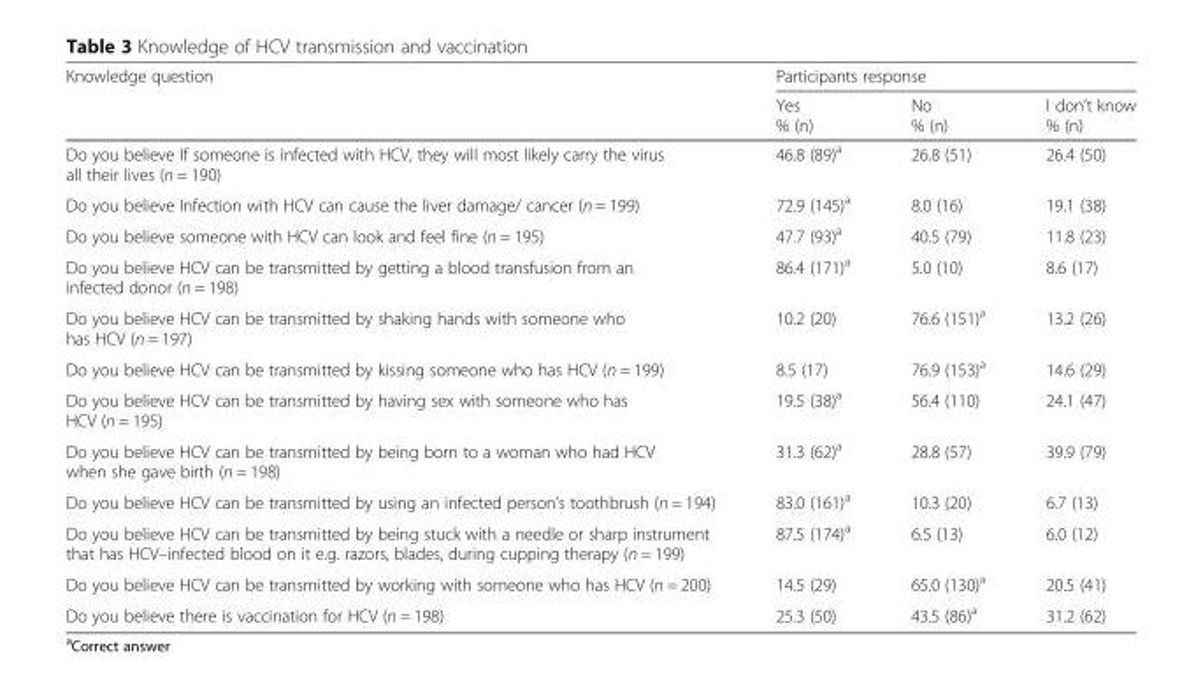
<table><thead><tr><td rowspan="2">Knowledge question</td><td colspan="3">Participants response</td></tr><tr><td>Yes % (n)</td><td>No % (n)</td><td>I don’t know % (n)</td></tr></thead><tbody><tr><td>Do you believe If someone is infected with HCV, they will most likely carry the virus all their lives (n = 190)</td><td>46.8 (89)<sup>a</sup></td><td>26.8 (51)</td><td>26.4 (50)</td></tr><tr><td>Do you believe Infection with HCV can cause the liver damage/ cancer (n = 199)</td><td>72.9 (145)<sup>a</sup></td><td>8.0 (16)</td><td>19.1 (38)</td></tr><tr><td>Do you believe someone with HCV can look and feel fine (n = 195)</td><td>47.7 (93)<sup>a</sup></td><td>40.5 (79)</td><td>11.8 (23)</td></tr><tr><td>Do you believe HCV can be transmitted by getting a blood transfusion from an infected donor (n = 198)</td><td>86.4 (171)<sup>a</sup></td><td>5.0 (10)</td><td>8.6 (17)</td></tr><tr><td>Do you believe HCV can be transmitted by shaking hands with someone who has HCV (n = 197)</td><td>10.2 (20)</td><td>76.6 (151)<sup>a</sup></td><td>13.2 (26)</td></tr><tr><td>Do you believe HCV can be transmitted by kissing someone who has HCV (n = 199)</td><td>8.5 (17)</td><td>76.9 (153)<sup>a</sup></td><td>14.6 (29)</td></tr><tr><td>Do you believe HCV can be transmitted by having sex with someone who has HCV (n = 195)</td><td>19.5 (38)<sup>a</sup></td><td>56.4 (110)</td><td>24.1 (47)</td></tr><tr><td>Do you believe HCV can be transmitted by being born to a woman who had HCV when she gave birth (n = 198)</td><td>31.3 (62)<sup>a</sup></td><td>28.8 (57)</td><td>39.9 (79)</td></tr><tr><td>Do you believe HCV can be transmitted by using an infected person’s toothbrush (n = 194)</td><td>83.0 (161)<sup>a</sup></td><td>10.3 (20)</td><td>6.7 (13)</td></tr><tr><td>Do you believe HCV can be transmitted by being stuck with a needle or sharp instrument that has HCV–infected blood on it e.g. razors, blades, during cupping therapy (n = 199)</td><td>87.5 (174)<sup>a</sup></td><td>6.5 (13)</td><td>6.0 (12)</td></tr><tr><td>Do you believe HCV can be transmitted by working with someone who has HCV (n = 200)</td><td>14.5 (29)</td><td>65.0 (130)<sup>a</sup></td><td>20.5 (41)</td></tr><tr><td>Do you believe there is vaccination for HCV (n = 198)</td><td>25.3 (50)</td><td>43.5 (86)<sup>a</sup></td><td>31.2 (62)</td></tr></tbody></table>